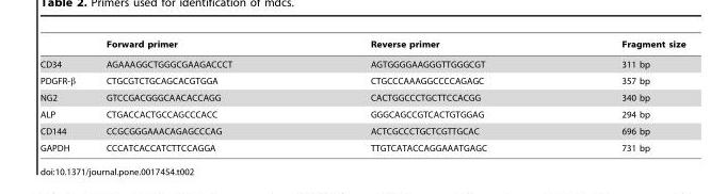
<table><thead><tr><td></td><td>Forward primer</td><td>Reverse primer</td><td>Fragment size</td></tr></thead><tbody><tr><td>CD34</td><td>AGAAAGGCTGGGCGAAGACCCT</td><td>AGTGGGGAAGGGTTGGGCGT</td><td>311 bp</td></tr><tr><td>PDGFR-β</td><td>CTGCGTCTGCAGCACGTGGA</td><td>CTGCCCAAAGGCCCCAGAGC</td><td>357 bp</td></tr><tr><td>NG2</td><td>GTCCGACGGGCAACACCAGG</td><td>CACTGGCCCTGCTTCCACGG</td><td>340 bp</td></tr><tr><td>ALP</td><td>CTGACCACTGCCAGCCCACC</td><td>GGGCAGCCGTCACTGTGGAG</td><td>294 bp</td></tr><tr><td>CD144</td><td>CCGCGGGAAACAGAGCCCAG</td><td>ACTCGCCCTGCTCGTTGCAC</td><td>696 bp</td></tr><tr><td>GAPDH</td><td>CCCATCACCATCTTCCAGGA</td><td>TTGTCATACCAGGAAATGAGC</td><td>731 bp</td></tr></tbody></table>